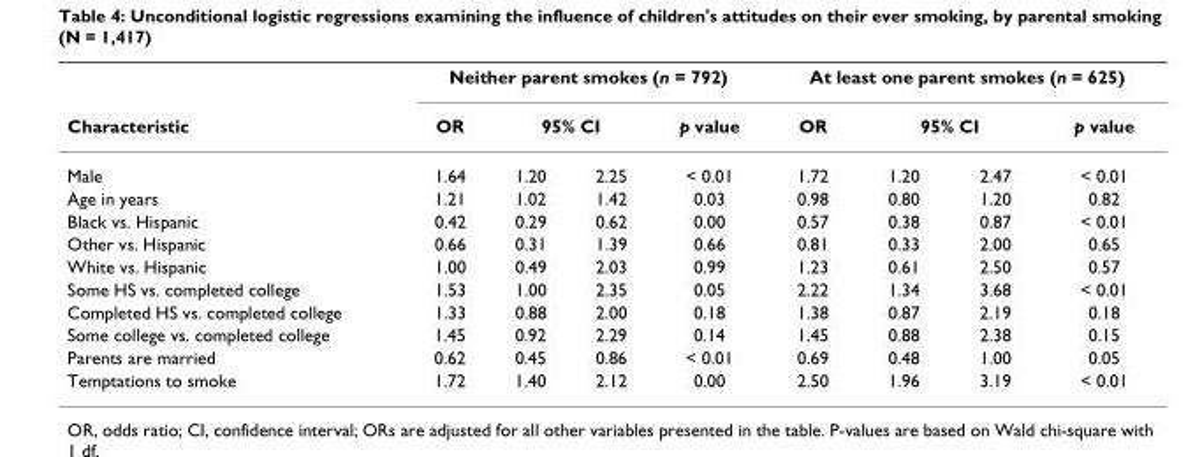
<table><thead><tr><td rowspan="3">Characteristic Male</td><td colspan="4">Neither parent smokes (n = 792)</td><td colspan="4">At least one parent smokes (n = 625)</td></tr><tr><td rowspan="2">OR 1.64</td><td colspan="2">95% CI</td><td rowspan="2">p value &lt; 0.01</td><td rowspan="2">OR 1.72</td><td colspan="2">95% CI</td><td rowspan="2">p value &lt; 0.01</td></tr><tr><td>1.20</td><td>2.25</td><td>1.20</td><td>2.47</td></tr></thead><tbody><tr><td>Age in years</td><td>1.21</td><td>1.02</td><td>1.42</td><td>0.03</td><td>0.98</td><td>0.80</td><td>1.20</td><td>0.82</td></tr><tr><td>Black vs. Hispanic</td><td>0.42</td><td>0.29</td><td>0.62</td><td>0.00</td><td>0.57</td><td>0.38</td><td>0.87</td><td>&lt; 0.01</td></tr><tr><td>Other vs. Hispanic</td><td>0.66</td><td>0.31</td><td>1.39</td><td>0.66</td><td>0.81</td><td>0.33</td><td>2.00</td><td>0.65</td></tr><tr><td>White vs. Hispanic</td><td>1.00</td><td>0.49</td><td>2.03</td><td>0.99</td><td>1.23</td><td>0.61</td><td>2.50</td><td>0.57</td></tr><tr><td>Some HS vs. completed college</td><td>1.53</td><td>1.00</td><td>2.35</td><td>0.05</td><td>2.22</td><td>1.34</td><td>3.68</td><td>&lt; 0.01</td></tr><tr><td>Completed HS vs. completed college</td><td>1.33</td><td>0.88</td><td>2.00</td><td>0.18</td><td>1.38</td><td>0.87</td><td>2.19</td><td>0.18</td></tr><tr><td>Some college vs. completed college</td><td>1.45</td><td>0.92</td><td>2.29</td><td>0.14</td><td>1.45</td><td>0.88</td><td>2.38</td><td>0.15</td></tr><tr><td>Parents are married</td><td>0.62</td><td>0.45</td><td>0.86</td><td>&lt; 0.01</td><td>0.69</td><td>0.48</td><td>1.00</td><td>0.05</td></tr><tr><td>Temptations to smoke</td><td>1.72</td><td>1.40</td><td>2.12</td><td>0.00</td><td>2.50</td><td>1.96</td><td>3.19</td><td>&lt; 0.01</td></tr></tbody></table>